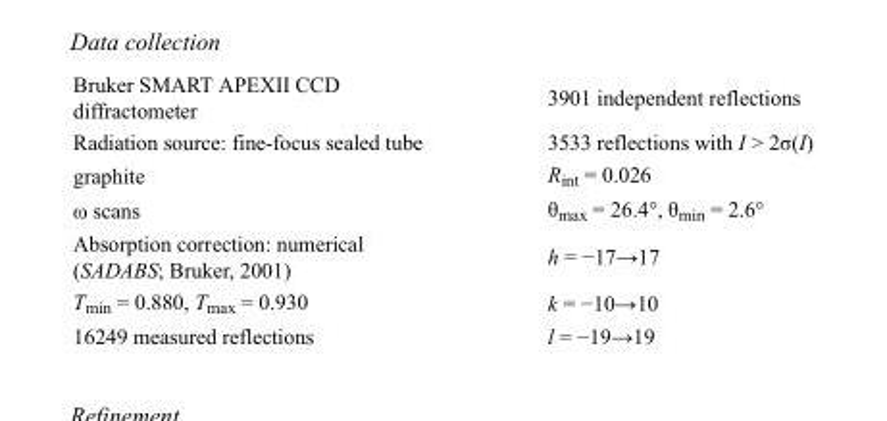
<table><tbody><tr><td>Bruker SMART APEXII CCD diffractometer</td><td>3901 independent reflections</td></tr><tr><td>Radiation source: fine-focus sealed tube</td><td>3533 reflections with I &gt; 2σ(I)</td></tr><tr><td>graphite</td><td>R<sub>int</sub> = 0.026</td></tr><tr><td>ω scans</td><td>θ<sub>max</sub> = 26.4°, θ<sub>min</sub> = 2.6°</td></tr><tr><td>Absorption correction: numerical (SADABS; Bruker, 2001)</td><td>h = −17→17</td></tr><tr><td>T<sub>min</sub> = 0.880, T<sub>max</sub> = 0.930</td><td>k = −10→10</td></tr><tr><td>16249 measured reflections</td><td>l = −19→19</td></tr></tbody></table>